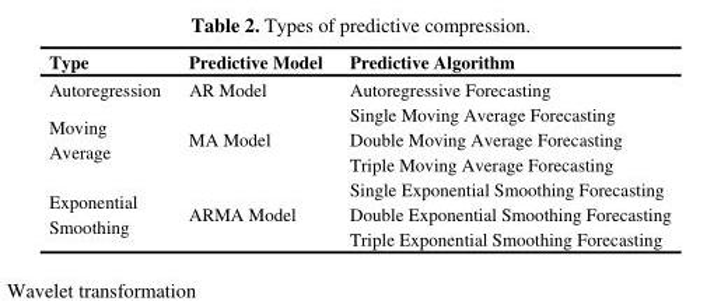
<table><thead><tr><td>Type</td><td>Predictive Model</td><td>Predictive Algorithm</td></tr></thead><tbody><tr><td>Autoregression</td><td>AR Model</td><td>Autoregressive Forecasting</td></tr><tr><td rowspan="3">Moving Average</td><td rowspan="3">MA Model</td><td>Single Moving Average Forecasting</td></tr><tr><td>Double Moving Average Forecasting</td></tr><tr><td>Triple Moving Average Forecasting</td></tr><tr><td rowspan="3">Exponential Smoothing</td><td rowspan="3">ARMA Model</td><td>Single Exponential Smoothing Forecasting</td></tr><tr><td>Double Exponential Smoothing Forecasting</td></tr><tr><td>Triple Exponential Smoothing Forecasting</td></tr></tbody></table>